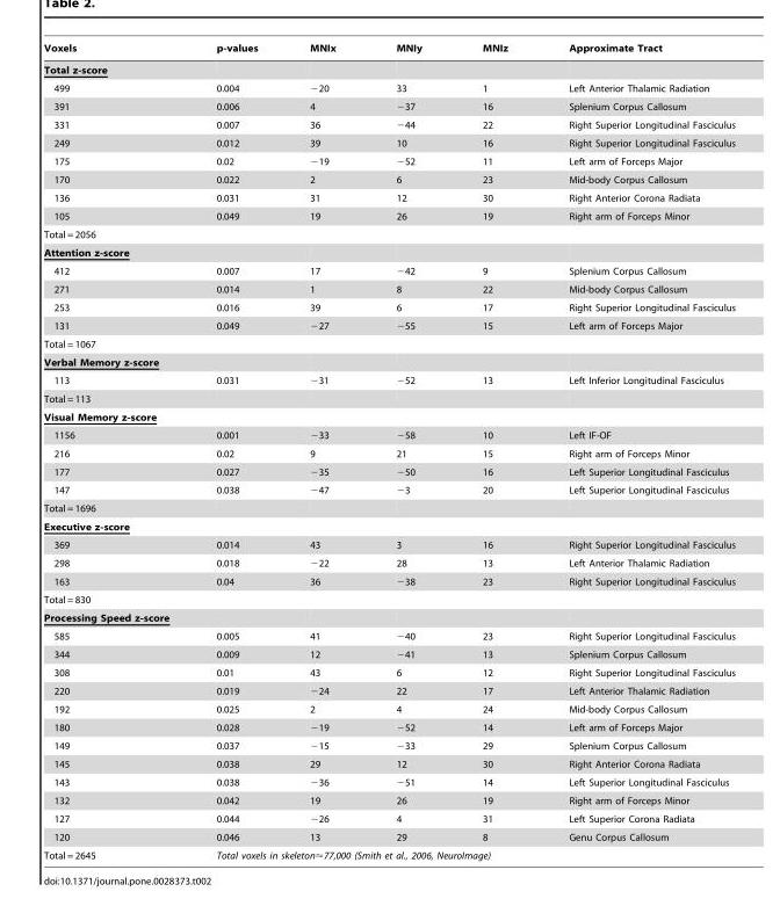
<table><thead><tr><td>Voxels</td><td>p-values</td><td>MNIx</td><td>MNIy</td><td>MNIz</td><td>Approximate Tract</td></tr></thead><tbody><tr><td colspan="6">Total z-score</td></tr><tr><td>499</td><td>0.004</td><td>−20</td><td>33</td><td>1</td><td>Left Anterior Thalamic Radiation</td></tr><tr><td>391</td><td>0.006</td><td>4</td><td>−37</td><td>16</td><td>Splenium Corpus Callosum</td></tr><tr><td>331</td><td>0.007</td><td>36</td><td>−44</td><td>22</td><td>Right Superior Longitudinal Fasciculus</td></tr><tr><td>249</td><td>0.012</td><td>39</td><td>10</td><td>16</td><td>Right Superior Longitudinal Fasciculus</td></tr><tr><td>175</td><td>0.02</td><td>−19</td><td>−52</td><td>11</td><td>Left arm of Forceps Major</td></tr><tr><td>170</td><td>0.022</td><td>2</td><td>6</td><td>23</td><td>Mid-body Corpus Callosum</td></tr><tr><td>136</td><td>0.031</td><td>31</td><td>12</td><td>30</td><td>Right Anterior Corona Radiata</td></tr><tr><td>105</td><td>0.049</td><td>19</td><td>26</td><td>19</td><td>Right arm of Forceps Minor</td></tr><tr><td colspan="6">Total = 2056</td></tr><tr><td colspan="6">Attention z-score</td></tr><tr><td>412</td><td>0.007</td><td>17</td><td>−42</td><td>9</td><td>Splenium Corpus Callosum</td></tr><tr><td>271</td><td>0.014</td><td>1</td><td>8</td><td>22</td><td>Mid-body Corpus Callosum</td></tr><tr><td>253</td><td>0.016</td><td>39</td><td>6</td><td>17</td><td>Right Superior Longitudinal Fasciculus</td></tr><tr><td>131</td><td>0.049</td><td>−27</td><td>−55</td><td>15</td><td>Left arm of Forceps Major</td></tr><tr><td colspan="6">Total = 1067</td></tr><tr><td colspan="6">Verbal Memory z-score</td></tr><tr><td>113</td><td>0.031</td><td>−31</td><td>−52</td><td>13</td><td>Left Inferior Longitudinal Fasciculus</td></tr><tr><td colspan="6">Total = 113</td></tr><tr><td colspan="6">Visual Memory z-score</td></tr><tr><td>1156</td><td>0.001</td><td>−33</td><td>−58</td><td>10</td><td>Left IF-OF</td></tr><tr><td>216</td><td>0.02</td><td>9</td><td>21</td><td>15</td><td>Right arm of Forceps Minor</td></tr><tr><td>177</td><td>0.027</td><td>−35</td><td>−50</td><td>16</td><td>Left Superior Longitudinal Fasciculus</td></tr><tr><td>147</td><td>0.038</td><td>−47</td><td>−3</td><td>20</td><td>Left Superior Longitudinal Fasciculus</td></tr><tr><td colspan="6">Total = 1696</td></tr><tr><td colspan="6">Executive z-score</td></tr><tr><td>369</td><td>0.014</td><td>43</td><td>3</td><td>16</td><td>Right Superior Longitudinal Fasciculus</td></tr><tr><td>298</td><td>0.018</td><td>−22</td><td>28</td><td>13</td><td>Left Anterior Thalamic Radiation</td></tr><tr><td>163</td><td>0.04</td><td>36</td><td>−38</td><td>23</td><td>Right Superior Longitudinal Fasciculus</td></tr><tr><td colspan="6">Total = 830</td></tr><tr><td colspan="6">Processing Speed z-score</td></tr><tr><td>585</td><td>0.005</td><td>41</td><td>−40</td><td>23</td><td>Right Superior Longitudinal Fasciculus</td></tr><tr><td>344</td><td>0.009</td><td>12</td><td>−41</td><td>13</td><td>Splenium Corpus Callosum</td></tr><tr><td>308</td><td>0.01</td><td>43</td><td>6</td><td>12</td><td>Right Superior Longitudinal Fasciculus</td></tr><tr><td>220</td><td>0.019</td><td>−24</td><td>22</td><td>17</td><td>Left Anterior Thalamic Radiation</td></tr><tr><td>192</td><td>0.025</td><td>2</td><td>4</td><td>24</td><td>Mid-body Corpus Callosum</td></tr><tr><td>180</td><td>0.028</td><td>−19</td><td>−52</td><td>14</td><td>Left arm of Forceps Major</td></tr><tr><td>149</td><td>0.037</td><td>−15</td><td>−33</td><td>29</td><td>Splenium Corpus Callosum</td></tr><tr><td>145</td><td>0.038</td><td>29</td><td>12</td><td>30</td><td>Right Anterior Corona Radiata</td></tr><tr><td>143</td><td>0.038</td><td>−36</td><td>−51</td><td>14</td><td>Left Superior Longitudinal Fasciculus</td></tr><tr><td>132</td><td>0.042</td><td>19</td><td>26</td><td>19</td><td>Right arm of Forceps Minor</td></tr><tr><td>127</td><td>0.044</td><td>−26</td><td>4</td><td>31</td><td>Left Superior Corona Radiata</td></tr><tr><td>120</td><td>0.046</td><td>13</td><td>29</td><td>8</td><td>Genu Corpus Callosum</td></tr><tr><td>Total = 2645</td><td colspan="5">Total voxels in skeleton&lt;77,000 (Smith et al., 2006, NeuroImage)</td></tr></tbody></table>